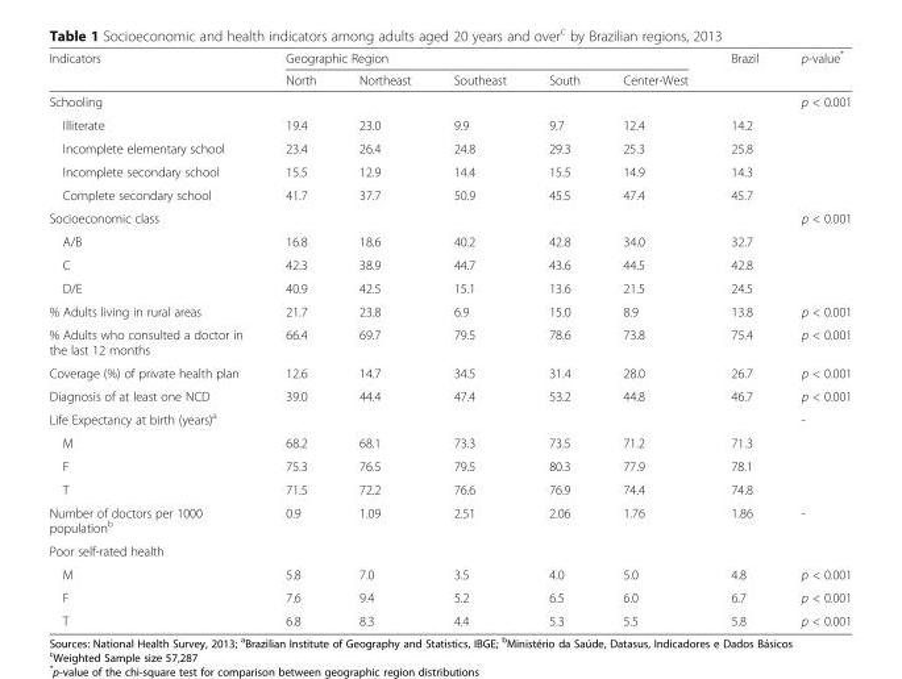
<table><thead><tr><td rowspan="2">Indicators</td><td colspan="5">Geographic Region</td><td rowspan="2">Brazil</td><td rowspan="2">p-value*</td></tr><tr><td>North</td><td>Northeast</td><td>Southeast</td><td>South</td><td>Center-West</td></tr></thead><tbody><tr><td colspan="7">Schooling</td><td rowspan="5">p &lt; 0.001</td></tr><tr><td>Illiterate</td><td>19.4</td><td>23.0</td><td>9.9</td><td>9.7</td><td>12.4</td><td>14.2</td></tr><tr><td>Incomplete elementary school</td><td>23.4</td><td>26.4</td><td>24.8</td><td>29.3</td><td>25.3</td><td>25.8</td></tr><tr><td>Incomplete secondary school</td><td>15.5</td><td>12.9</td><td>14.4</td><td>15.5</td><td>14.9</td><td>14.3</td></tr><tr><td>Complete secondary school</td><td>41.7</td><td>37.7</td><td>50.9</td><td>45.5</td><td>47.4</td><td>45.7</td></tr><tr><td colspan="7">Socioeconomic class</td><td rowspan="4">p &lt; 0.001</td></tr><tr><td>A/B</td><td>16.8</td><td>18.6</td><td>40.2</td><td>42.8</td><td>34.0</td><td>32.7</td></tr><tr><td>C</td><td>42.3</td><td>38.9</td><td>44.7</td><td>43.6</td><td>44.5</td><td>42.8</td></tr><tr><td>D/E</td><td>40.9</td><td>42.5</td><td>15.1</td><td>13.6</td><td>21.5</td><td>24.5</td></tr><tr><td>% Adults living in rural areas</td><td>21.7</td><td>23.8</td><td>6.9</td><td>15.0</td><td>8.9</td><td>13.8</td><td>p &lt; 0.001</td></tr><tr><td>% Adults who consulted a doctor in the last 12 months</td><td>66.4</td><td>69.7</td><td>79.5</td><td>78.6</td><td>73.8</td><td>75.4</td><td>p &lt; 0.001</td></tr><tr><td>Coverage (%) of private health plan</td><td>12.6</td><td>14.7</td><td>34.5</td><td>31.4</td><td>28.0</td><td>26.7</td><td>p &lt; 0.001</td></tr><tr><td>Diagnosis of at least one NCD</td><td>39.0</td><td>44.4</td><td>47.4</td><td>53.2</td><td>44.8</td><td>46.7</td><td>p &lt; 0.001</td></tr><tr><td colspan="7">Life Expectancy at birth (years)<sup>a</sup></td><td rowspan="4">-</td></tr><tr><td>M</td><td>68.2</td><td>68.1</td><td>73.3</td><td>73.5</td><td>71.2</td><td>71.3</td></tr><tr><td>F</td><td>75.3</td><td>76.5</td><td>79.5</td><td>80.3</td><td>77.9</td><td>78.1</td></tr><tr><td>T</td><td>71.5</td><td>72.2</td><td>76.6</td><td>76.9</td><td>74.4</td><td>74.8</td></tr><tr><td>Number of doctors per 1000 population<sup>b</sup></td><td>0.9</td><td>1.09</td><td>2.51</td><td>2.06</td><td>1.76</td><td>1.86</td><td>-</td></tr><tr><td colspan="8">Poor self-rated health</td></tr><tr><td>M</td><td>5.8</td><td>7.0</td><td>3.5</td><td>4.0</td><td>5.0</td><td>4.8</td><td>p &lt; 0.001</td></tr><tr><td>F</td><td>7.6</td><td>9.4</td><td>5.2</td><td>6.5</td><td>6.0</td><td>6.7</td><td>p &lt; 0.001</td></tr><tr><td>T</td><td>6.8</td><td>8.3</td><td>4.4</td><td>5.3</td><td>5.5</td><td>5.8</td><td>p &lt; 0.001</td></tr></tbody></table>